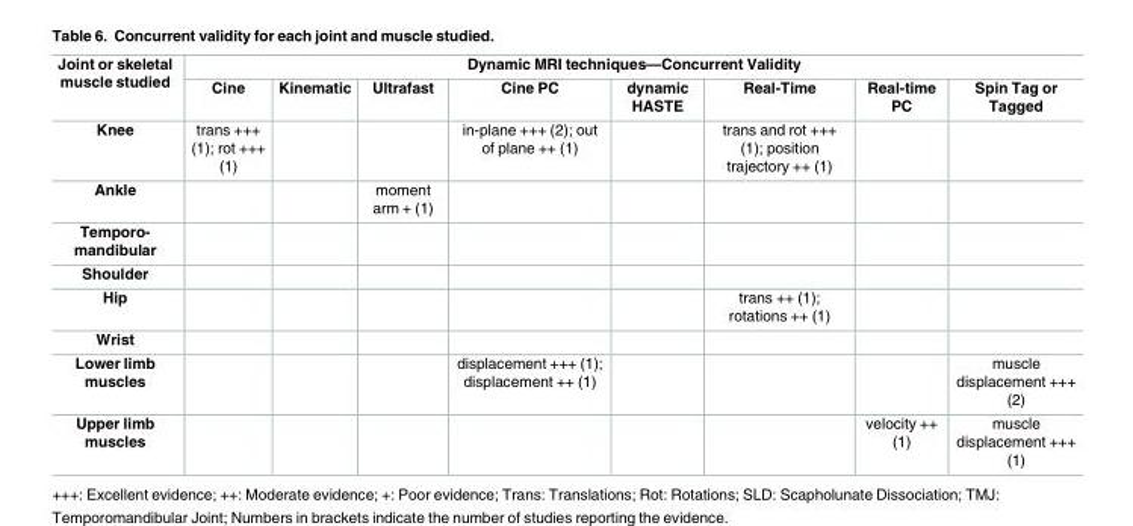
<table><thead><tr><td rowspan="2">Joint or skeletal muscle studied</td><td colspan="8">Dynamic MRI techniques—Concurrent Validity</td></tr><tr><td>Cine</td><td>Kinematic</td><td>Ultrafast</td><td>Cine PC</td><td>dynamic HASTE</td><td>Real-Time</td><td>Real-time PC</td><td>Spin Tag or Tagged</td></tr></thead><tbody><tr><td>Knee</td><td>trans +++ (1); rot +++ (1)</td><td></td><td></td><td>in-plane +++ (2); out of plane ++ (1)</td><td></td><td>trans and rot +++ (1); position trajectory ++ (1)</td><td></td><td></td></tr><tr><td>Ankle</td><td></td><td></td><td>moment arm + (1)</td><td></td><td></td><td></td><td></td><td></td></tr><tr><td colspan="9">Temporo- mandibular</td></tr><tr><td colspan="9">Shoulder</td></tr><tr><td>Hip</td><td></td><td></td><td></td><td></td><td></td><td>trans ++ (1); rotations ++ (1)</td><td></td><td></td></tr><tr><td colspan="9">Wrist</td></tr><tr><td>Lower limb muscles</td><td></td><td></td><td></td><td>displacement +++ (1); displacement ++ (1)</td><td></td><td></td><td></td><td>muscle displacement +++ (2)</td></tr><tr><td>Upper limb muscles</td><td></td><td></td><td></td><td></td><td></td><td></td><td>velocity ++ (1)</td><td>muscle displacement +++ (1)</td></tr></tbody></table>